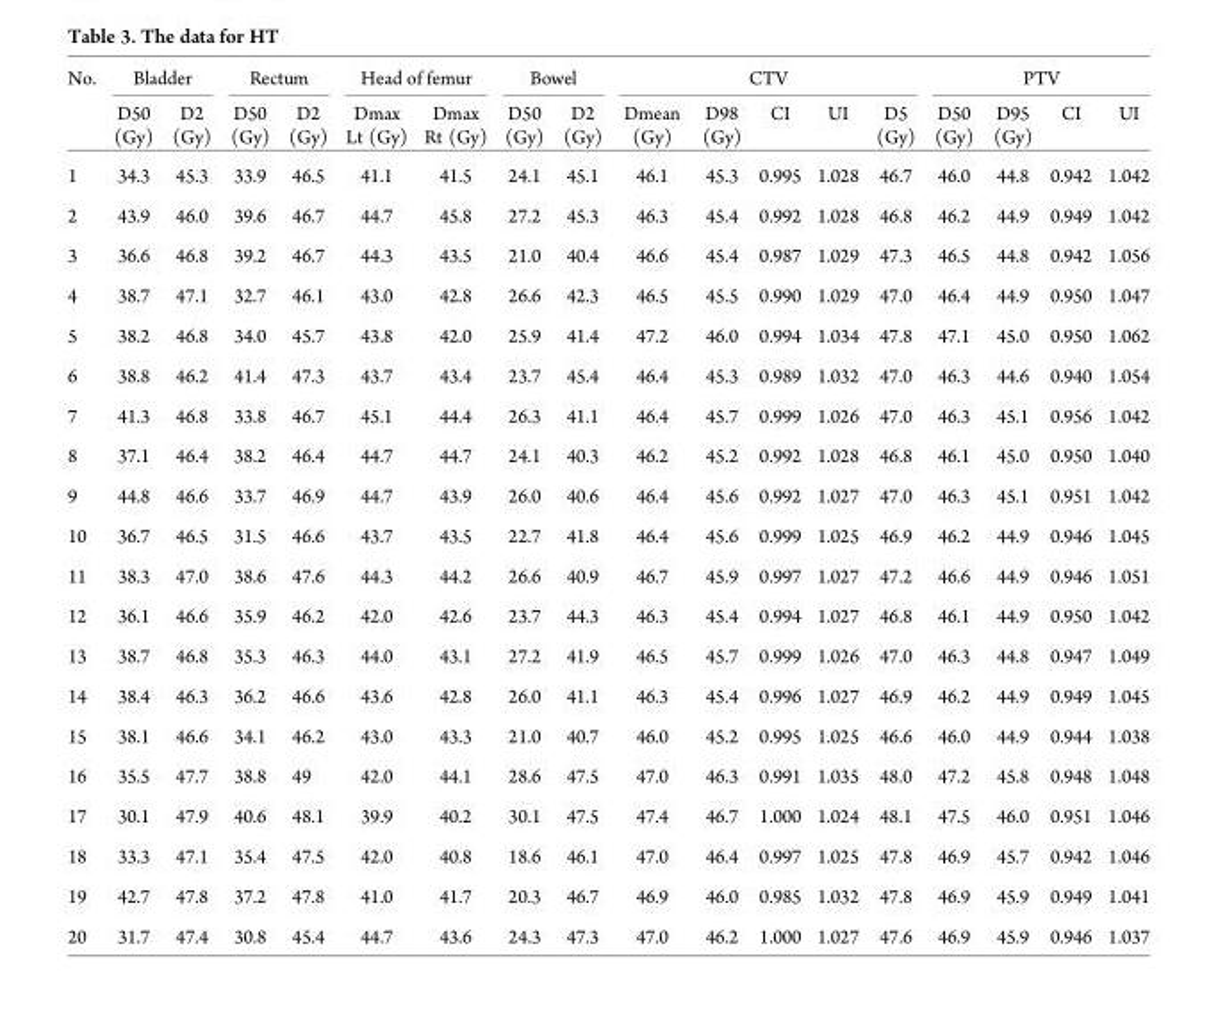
<table><thead><tr><td rowspan="2">No.</td><td colspan="2">Bladder</td><td colspan="2">Rectum</td><td colspan="2">Head of femur</td><td colspan="2">Bowel</td><td colspan="5">CTV</td><td colspan="4">PTV</td></tr><tr><td>D50 (Gy)</td><td>D2 (Gy)</td><td>D50 (Gy)</td><td>D2 (Gy)</td><td>Dmax Lt (Gy)</td><td>Dmax Rt (Gy)</td><td>D50 (Gy)</td><td>D2 (Gy)</td><td>Dmean (Gy)</td><td>D98 (Gy)</td><td>CI</td><td>UI</td><td>D5 (Gy)</td><td>D50 (Gy)</td><td>D95 (Gy)</td><td>CI</td><td>UI</td></tr></thead><tbody><tr><td>1</td><td>34.3</td><td>45.3</td><td>33.9</td><td>46.5</td><td>41.1</td><td>41.5</td><td>24.1</td><td>45.1</td><td>46.1</td><td>45.3</td><td>0.995</td><td>1.028</td><td>46.7</td><td>46.0</td><td>44.8</td><td>0.942</td><td>1.042</td></tr><tr><td>2</td><td>43.9</td><td>46.0</td><td>39.6</td><td>46.7</td><td>44.7</td><td>45.8</td><td>27.2</td><td>45.3</td><td>46.3</td><td>45.4</td><td>0.992</td><td>1.028</td><td>46.8</td><td>46.2</td><td>44.9</td><td>0.949</td><td>1.042</td></tr><tr><td>3</td><td>36.6</td><td>46.8</td><td>39.2</td><td>46.7</td><td>44.3</td><td>43.5</td><td>21.0</td><td>40.4</td><td>46.6</td><td>45.4</td><td>0.987</td><td>1.029</td><td>47.3</td><td>46.5</td><td>44.8</td><td>0.942</td><td>1.056</td></tr><tr><td>4</td><td>38.7</td><td>47.1</td><td>32.7</td><td>46.1</td><td>43.0</td><td>42.8</td><td>26.6</td><td>42.3</td><td>46.5</td><td>45.5</td><td>0.990</td><td>1.029</td><td>47.0</td><td>46.4</td><td>44.9</td><td>0.950</td><td>1.047</td></tr><tr><td>5</td><td>38.2</td><td>46.8</td><td>34.0</td><td>45.7</td><td>43.8</td><td>42.0</td><td>25.9</td><td>41.4</td><td>47.2</td><td>46.0</td><td>0.994</td><td>1.034</td><td>47.8</td><td>47.1</td><td>45.0</td><td>0.950</td><td>1.062</td></tr><tr><td>6</td><td>38.8</td><td>46.2</td><td>41.4</td><td>47.3</td><td>43.7</td><td>43.4</td><td>23.7</td><td>45.4</td><td>46.4</td><td>45.3</td><td>0.989</td><td>1.032</td><td>47.0</td><td>46.3</td><td>44.6</td><td>0.940</td><td>1.054</td></tr><tr><td>7</td><td>41.3</td><td>46.8</td><td>33.8</td><td>46.7</td><td>45.1</td><td>44.4</td><td>26.3</td><td>41.1</td><td>46.4</td><td>45.7</td><td>0.999</td><td>1.026</td><td>47.0</td><td>46.3</td><td>45.1</td><td>0.956</td><td>1.042</td></tr><tr><td>8</td><td>37.1</td><td>46.4</td><td>38.2</td><td>46.4</td><td>44.7</td><td>44.7</td><td>24.1</td><td>40.3</td><td>46.2</td><td>45.2</td><td>0.992</td><td>1.028</td><td>46.8</td><td>46.1</td><td>45.0</td><td>0.950</td><td>1.040</td></tr><tr><td>9</td><td>44.8</td><td>46.6</td><td>33.7</td><td>46.9</td><td>44.7</td><td>43.9</td><td>26.0</td><td>40.6</td><td>46.4</td><td>45.6</td><td>0.992</td><td>1.027</td><td>47.0</td><td>46.3</td><td>45.1</td><td>0.951</td><td>1.042</td></tr><tr><td>10</td><td>36.7</td><td>46.5</td><td>31.5</td><td>46.6</td><td>43.7</td><td>43.5</td><td>22.7</td><td>41.8</td><td>46.4</td><td>45.6</td><td>0.999</td><td>1.025</td><td>46.9</td><td>46.2</td><td>44.9</td><td>0.946</td><td>1.045</td></tr><tr><td>11</td><td>38.3</td><td>47.0</td><td>38.6</td><td>47.6</td><td>44.3</td><td>44.2</td><td>26.6</td><td>40.9</td><td>46.7</td><td>45.9</td><td>0.997</td><td>1.027</td><td>47.2</td><td>46.6</td><td>44.9</td><td>0.946</td><td>1.051</td></tr><tr><td>12</td><td>36.1</td><td>46.6</td><td>35.9</td><td>46.2</td><td>42.0</td><td>42.6</td><td>23.7</td><td>44.3</td><td>46.3</td><td>45.4</td><td>0.994</td><td>1.027</td><td>46.8</td><td>46.1</td><td>44.9</td><td>0.950</td><td>1.042</td></tr><tr><td>13</td><td>38.7</td><td>46.8</td><td>35.3</td><td>46.3</td><td>44.0</td><td>43.1</td><td>27.2</td><td>41.9</td><td>46.5</td><td>45.7</td><td>0.999</td><td>1.026</td><td>47.0</td><td>46.3</td><td>44.8</td><td>0.947</td><td>1.049</td></tr><tr><td>14</td><td>38.4</td><td>46.3</td><td>36.2</td><td>46.6</td><td>43.6</td><td>42.8</td><td>26.0</td><td>41.1</td><td>46.3</td><td>45.4</td><td>0.996</td><td>1.027</td><td>46.9</td><td>46.2</td><td>44.9</td><td>0.949</td><td>1.045</td></tr><tr><td>15</td><td>38.1</td><td>46.6</td><td>34.1</td><td>46.2</td><td>43.0</td><td>43.3</td><td>21.0</td><td>40.7</td><td>46.0</td><td>45.2</td><td>0.995</td><td>1.025</td><td>46.6</td><td>46.0</td><td>44.9</td><td>0.944</td><td>1.038</td></tr><tr><td>16</td><td>35.5</td><td>47.7</td><td>38.8</td><td>49</td><td>42.0</td><td>44.1</td><td>28.6</td><td>47.5</td><td>47.0</td><td>46.3</td><td>0.991</td><td>1.035</td><td>48.0</td><td>47.2</td><td>45.8</td><td>0.948</td><td>1.048</td></tr><tr><td>17</td><td>30.1</td><td>47.9</td><td>40.6</td><td>48.1</td><td>39.9</td><td>40.2</td><td>30.1</td><td>47.5</td><td>47.4</td><td>46.7</td><td>1.000</td><td>1.024</td><td>48.1</td><td>47.5</td><td>46.0</td><td>0.951</td><td>1.046</td></tr><tr><td>18</td><td>33.3</td><td>47.1</td><td>35.4</td><td>47.5</td><td>42.0</td><td>40.8</td><td>18.6</td><td>46.1</td><td>47.0</td><td>46.4</td><td>0.997</td><td>1.025</td><td>47.8</td><td>46.9</td><td>45.7</td><td>0.942</td><td>1.046</td></tr><tr><td>19</td><td>42.7</td><td>47.8</td><td>37.2</td><td>47.8</td><td>41.0</td><td>41.7</td><td>20.3</td><td>46.7</td><td>46.9</td><td>46.0</td><td>0.985</td><td>1.032</td><td>47.8</td><td>46.9</td><td>45.9</td><td>0.949</td><td>1.041</td></tr><tr><td>20</td><td>31.7</td><td>47.4</td><td>30.8</td><td>45.4</td><td>44.7</td><td>43.6</td><td>24.3</td><td>47.3</td><td>47.0</td><td>46.2</td><td>1.000</td><td>1.027</td><td>47.6</td><td>46.9</td><td>45.9</td><td>0.946</td><td>1.037</td></tr></tbody></table>